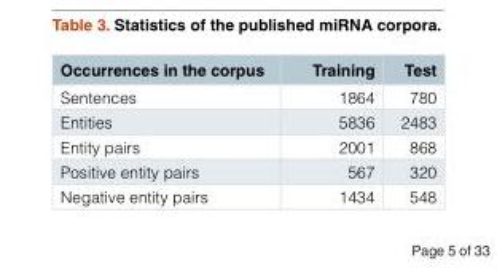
<table><thead><tr><td>Occurrences in the corpus</td><td>Training</td><td>Test</td></tr></thead><tbody><tr><td>Sentences</td><td>1864</td><td>780</td></tr><tr><td>Entities</td><td>5836</td><td>2483</td></tr><tr><td>Entity pairs</td><td>2001</td><td>868</td></tr><tr><td>Positive entity pairs</td><td>567</td><td>320</td></tr><tr><td>Negative entity pairs</td><td>1434</td><td>548</td></tr></tbody></table>